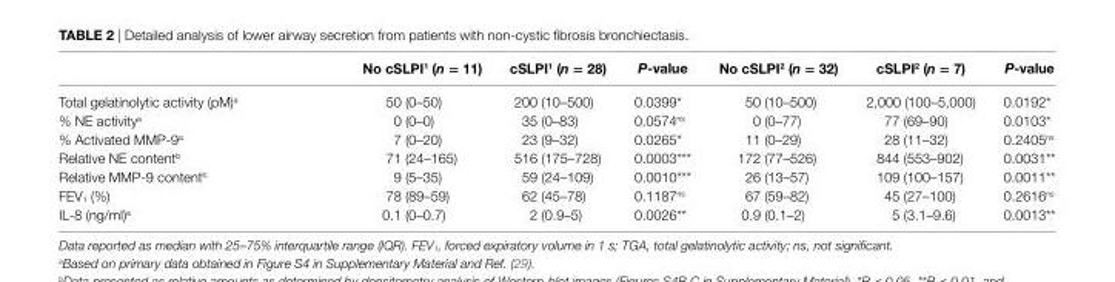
<table><thead><tr><td></td><td>no cslPi<sup>1</sup> (n = 11)</td><td>cslPi<sup>1</sup> (n = 28)</td><td>P-value</td><td>no cslPi<sup>2</sup> (n = 32)</td><td>cslPi<sup>2</sup> (n = 7)</td><td>P-value</td></tr></thead><tbody><tr><td>Total gelatinolytic activity (pM)<sup>a</sup></td><td>50 (0–50)</td><td>200 (10–500)</td><td>0.0399*</td><td>50 (10–500)</td><td>2,000 (100–5,000)</td><td>0.0192*</td></tr><tr><td>% NE activity<sup>a</sup></td><td>0 (0–0)</td><td>35 (0–83)</td><td>0.0574<sup>ns</sup></td><td>0 (0–77)</td><td>77 (69–90)</td><td>0.0103*</td></tr><tr><td>% Activated MMP-9<sup>a</sup></td><td>7 (0–20)</td><td>23 (9–32)</td><td>0.0265*</td><td>11 (0–29)</td><td>28 (11–32)</td><td>0.2405<sup>ns</sup></td></tr><tr><td>Relative NE content<sup>b</sup></td><td>71 (24–165)</td><td>516 (175–728)</td><td>0.0003***</td><td>172 (77–526)</td><td>844 (553–902)</td><td>0.0031**</td></tr><tr><td>Relative MMP-9 content<sup>b</sup></td><td>9 (5–35)</td><td>59 (24–109)</td><td>0.0010***</td><td>26 (13–57)</td><td>109 (100–157)</td><td>0.0011**</td></tr><tr><td>FEV<sub>1</sub> (%)</td><td>78 (89–59)</td><td>62 (45–78)</td><td>0.1187<sup>ns</sup></td><td>67 (59–82)</td><td>45 (27–100)</td><td>0.2616<sup>ns</sup></td></tr><tr><td>IL-8 (ng/ml)<sup>a</sup></td><td>0.1 (0–0.7)</td><td>2 (0.9–5)</td><td>0.0026**</td><td>0.9 (0.1–2)</td><td>5 (3.1–9.6)</td><td>0.0013**</td></tr></tbody></table>